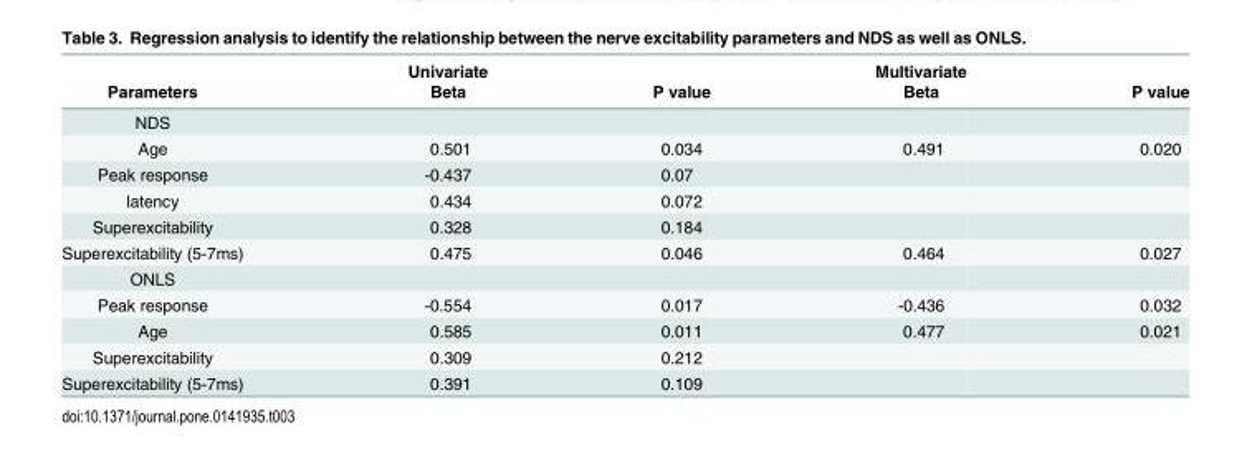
<table><thead><tr><td rowspan="2">Parameters</td><td rowspan="2">Univariate Beta</td><td rowspan="2">P value</td><td rowspan="2">Multivariate Beta</td><td rowspan="2">P value</td></tr><tr></tr></thead><tbody><tr><td colspan="5">NDS</td></tr><tr><td>Age</td><td>0.501</td><td>0.034</td><td>0.491</td><td>0.020</td></tr><tr><td>Peak response</td><td>-0.437</td><td>0.07</td><td></td><td></td></tr><tr><td>latency</td><td>0.434</td><td>0.072</td><td></td><td></td></tr><tr><td>Superexcitability</td><td>0.328</td><td>0.184</td><td></td><td></td></tr><tr><td>Superexcitability (5-7ms)</td><td>0.475</td><td>0.046</td><td>0.464</td><td>0.027</td></tr><tr><td colspan="5">ONLS</td></tr><tr><td>Peak response</td><td>-0.554</td><td>0.017</td><td>-0.436</td><td>0.032</td></tr><tr><td>Age</td><td>0.585</td><td>0.011</td><td>0.477</td><td>0.021</td></tr><tr><td>Superexcitability</td><td>0.309</td><td>0.212</td><td></td><td></td></tr><tr><td>Superexcitability (5-7ms)</td><td>0.391</td><td>0.109</td><td></td><td></td></tr></tbody></table>